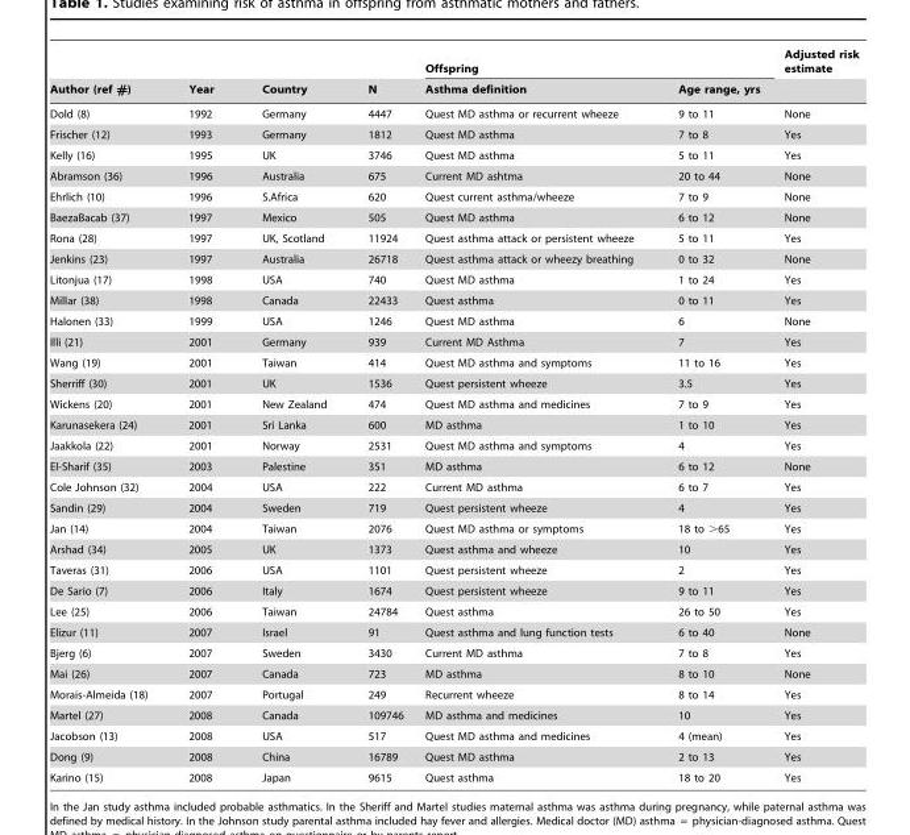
<table><thead><tr><td rowspan="2">Author (ref #)</td><td rowspan="2">Year</td><td rowspan="2">Country</td><td rowspan="2">N</td><td colspan="2">Offspring</td><td rowspan="2">Adjusted risk estimate</td></tr><tr><td>Asthma definition</td><td>Age range, yrs</td></tr></thead><tbody><tr><td>Dold (8)</td><td>1992</td><td>Germany</td><td>4447</td><td>Quest MD asthma or recurrent wheeze</td><td>9 to 11</td><td>None</td></tr><tr><td>Frischer (12)</td><td>1993</td><td>Germany</td><td>1812</td><td>Quest MD asthma</td><td>7 to 8</td><td>Yes</td></tr><tr><td>Kelly (16)</td><td>1995</td><td>UK</td><td>3746</td><td>Quest MD asthma</td><td>5 to 11</td><td>Yes</td></tr><tr><td>Abramson (36)</td><td>1996</td><td>Australia</td><td>675</td><td>Current MD ashtma</td><td>20 to 44</td><td>None</td></tr><tr><td>Ehrlich (10)</td><td>1996</td><td>S.Africa</td><td>620</td><td>Quest current asthma/wheeze</td><td>7 to 9</td><td>None</td></tr><tr><td>BaezaBacab (37)</td><td>1997</td><td>Mexico</td><td>505</td><td>Quest MD asthma</td><td>6 to 12</td><td>None</td></tr><tr><td>Rona (28)</td><td>1997</td><td>UK, Scotland</td><td>11924</td><td>Quest asthma attack or persistent wheeze</td><td>5 to 11</td><td>Yes</td></tr><tr><td>Jenkins (23)</td><td>1997</td><td>Australia</td><td>26718</td><td>Quest asthma attack or wheezy breathing</td><td>0 to 32</td><td>None</td></tr><tr><td>Litonjua (17)</td><td>1998</td><td>USA</td><td>740</td><td>Quest MD asthma</td><td>1 to 24</td><td>Yes</td></tr><tr><td>Millar (38)</td><td>1998</td><td>Canada</td><td>22433</td><td>Quest asthma</td><td>0 to 11</td><td>Yes</td></tr><tr><td>Halonen (33)</td><td>1999</td><td>USA</td><td>1246</td><td>Quest MD asthma</td><td>6</td><td>None</td></tr><tr><td>Illi (21)</td><td>2001</td><td>Germany</td><td>939</td><td>Current MD Asthma</td><td>7</td><td>Yes</td></tr><tr><td>Wang (19)</td><td>2001</td><td>Taiwan</td><td>414</td><td>Quest MD asthma and symptoms</td><td>11 to 16</td><td>Yes</td></tr><tr><td>Sherriff (30)</td><td>2001</td><td>UK</td><td>1536</td><td>Quest persistent wheeze</td><td>3.5</td><td>Yes</td></tr><tr><td>Wickens (20)</td><td>2001</td><td>New Zealand</td><td>474</td><td>Quest MD asthma and medicines</td><td>7 to 9</td><td>Yes</td></tr><tr><td>Karunasekera (24)</td><td>2001</td><td>Sri Lanka</td><td>600</td><td>MD asthma</td><td>1 to 10</td><td>Yes</td></tr><tr><td>Jaakkola (22)</td><td>2001</td><td>Norway</td><td>2531</td><td>Quest MD asthma and symptoms</td><td>4</td><td>Yes</td></tr><tr><td>El-Sharif (35)</td><td>2003</td><td>Palestine</td><td>351</td><td>MD asthma</td><td>6 to 12</td><td>None</td></tr><tr><td>Cole Johnson (32)</td><td>2004</td><td>USA</td><td>222</td><td>Current MD asthma</td><td>6 to 7</td><td>Yes</td></tr><tr><td>Sandin (29)</td><td>2004</td><td>Sweden</td><td>719</td><td>Quest persistent wheeze</td><td>4</td><td>Yes</td></tr><tr><td>Jan (14)</td><td>2004</td><td>Taiwan</td><td>2076</td><td>Quest MD asthma or symptoms</td><td>18 to &gt;65</td><td>Yes</td></tr><tr><td>Arshad (34)</td><td>2005</td><td>UK</td><td>1373</td><td>Quest asthma and wheeze</td><td>10</td><td>Yes</td></tr><tr><td>Taveras (31)</td><td>2006</td><td>USA</td><td>1101</td><td>Quest persistent wheeze</td><td>2</td><td>Yes</td></tr><tr><td>De Sario (7)</td><td>2006</td><td>Italy</td><td>1674</td><td>Quest persistent wheeze</td><td>9 to 11</td><td>Yes</td></tr><tr><td>Lee (25)</td><td>2006</td><td>Taiwan</td><td>24784</td><td>Quest asthma</td><td>26 to 50</td><td>Yes</td></tr><tr><td>Elizur (11)</td><td>2007</td><td>Israel</td><td>91</td><td>Quest asthma and lung function tests</td><td>6 to 40</td><td>None</td></tr><tr><td>Bjerg (6)</td><td>2007</td><td>Sweden</td><td>3430</td><td>Current MD asthma</td><td>7 to 8</td><td>Yes</td></tr><tr><td>Mai (26)</td><td>2007</td><td>Canada</td><td>723</td><td>MD asthma</td><td>8 to 10</td><td>None</td></tr><tr><td>Morais-Almeida (18)</td><td>2007</td><td>Portugal</td><td>249</td><td>Recurrent wheeze</td><td>8 to 14</td><td>Yes</td></tr><tr><td>Martel (27)</td><td>2008</td><td>Canada</td><td>109746</td><td>MD asthma and medicines</td><td>10</td><td>Yes</td></tr><tr><td>Jacobson (13)</td><td>2008</td><td>USA</td><td>517</td><td>Quest MD asthma and medicines</td><td>4 (mean)</td><td>Yes</td></tr><tr><td>Dong (9)</td><td>2008</td><td>China</td><td>16789</td><td>Quest MD asthma</td><td>2 to 13</td><td>Yes</td></tr><tr><td>Karino (15)</td><td>2008</td><td>Japan</td><td>9615</td><td>Quest asthma</td><td>18 to 20</td><td>Yes</td></tr></tbody></table>